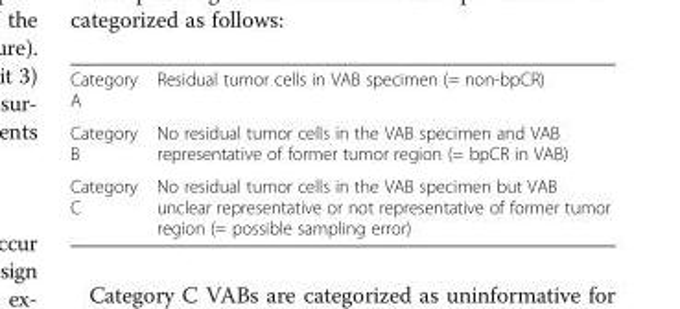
<table><tbody><tr><td>Category A</td><td>Residual tumor cells in VAB specimen (= non-bpCR)</td></tr><tr><td>Category B</td><td>No residual tumor cells in the VAB specimen and VAB representative of former tumor region (= bpCR in VAB)</td></tr><tr><td>Category C</td><td>No residual tumor cells in the VAB specimen but VAB unclear representative or not representative of former tumor region (= possible sampling error)</td></tr></tbody></table>